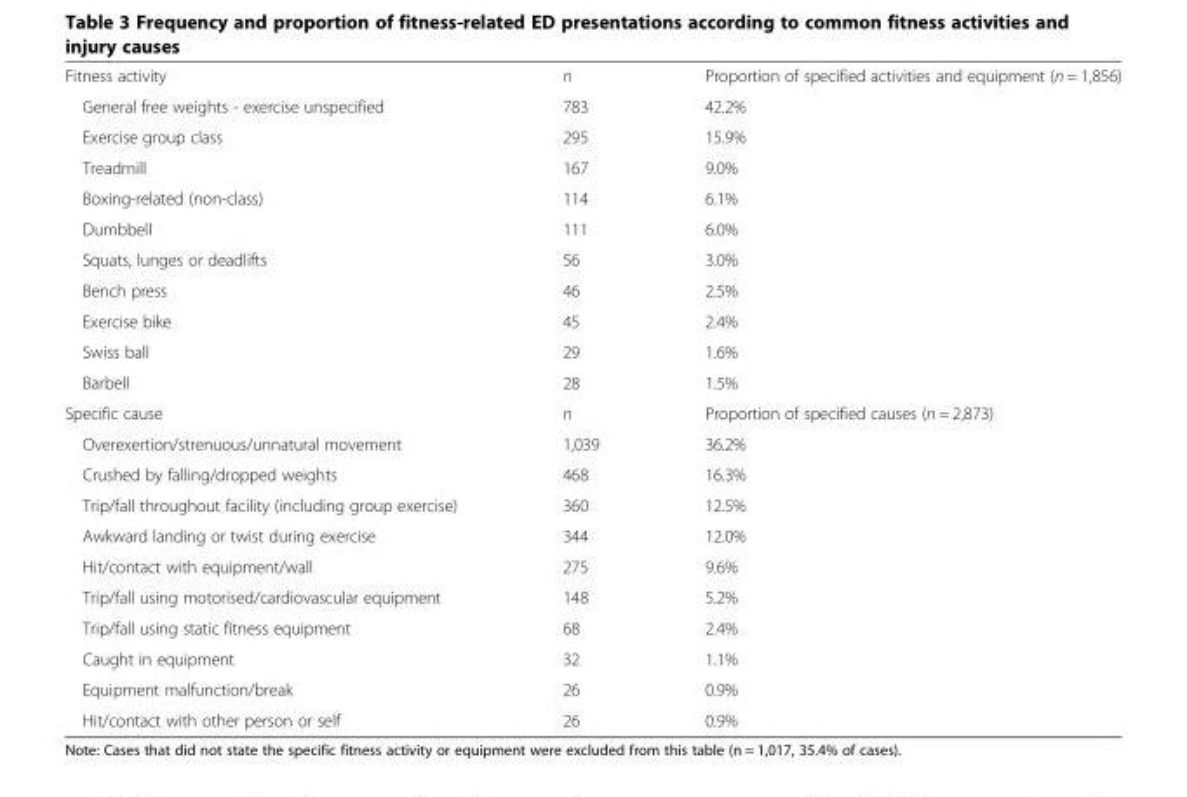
<table><tbody><tr><td>Fitness activity</td><td>n</td><td>Proportion of specified activities and equipment (n = 1,856)</td></tr><tr><td>General free weights - exercise unspecified</td><td>783</td><td>42.2%</td></tr><tr><td>Exercise group class</td><td>295</td><td>15.9%</td></tr><tr><td>Treadmill</td><td>167</td><td>9.0%</td></tr><tr><td>Boxing-related (non-class)</td><td>114</td><td>6.1%</td></tr><tr><td>Dumbbell</td><td>111</td><td>6.0%</td></tr><tr><td>Squats, lunges or deadlifts</td><td>56</td><td>3.0%</td></tr><tr><td>Bench press</td><td>46</td><td>2.5%</td></tr><tr><td>Exercise bike</td><td>45</td><td>2.4%</td></tr><tr><td>Swiss ball</td><td>29</td><td>1.6%</td></tr><tr><td>Barbell</td><td>28</td><td>1.5%</td></tr><tr><td>Specific cause</td><td>n</td><td>Proportion of specified causes (n = 2,873)</td></tr><tr><td>Overexertion/strenuous/unnatural movement</td><td>1,039</td><td>36.2%</td></tr><tr><td>Crushed by falling/dropped weights</td><td>468</td><td>16.3%</td></tr><tr><td>Trip/fall throughout facility (including group exercise)</td><td>360</td><td>12.5%</td></tr><tr><td>Awkward landing or twist during exercise</td><td>344</td><td>12.0%</td></tr><tr><td>Hit/contact with equipment/wall</td><td>275</td><td>9.6%</td></tr><tr><td>Trip/fall using motorised/cardiovascular equipment</td><td>148</td><td>5.2%</td></tr><tr><td>Trip/fall using static fitness equipment</td><td>68</td><td>2.4%</td></tr><tr><td>Caught in equipment</td><td>32</td><td>1.1%</td></tr><tr><td>Equipment malfunction/break</td><td>26</td><td>0.9%</td></tr><tr><td>Hit/contact with other person or self</td><td>26</td><td>0.9%</td></tr></tbody></table>